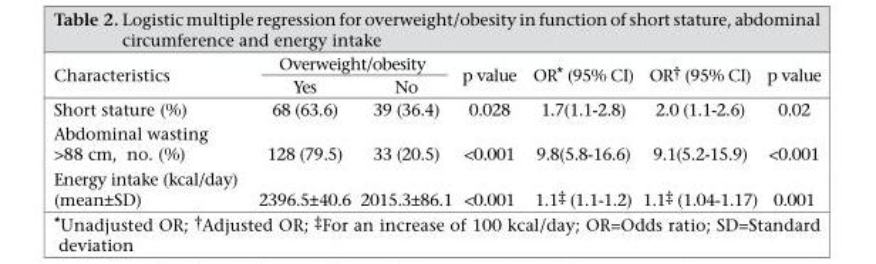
<table><thead><tr><td rowspan="2">Characteristics</td><td colspan="2">Overweight/obesity</td><td rowspan="2">p value</td><td rowspan="2">OR* (95% CI)</td><td rowspan="2">OR† (95% CI)</td><td rowspan="2">p value</td></tr><tr><td>Yes</td><td>No</td></tr></thead><tbody><tr><td>Short stature (%)</td><td>68 (63.6)</td><td>39 (36.4)</td><td>0.028</td><td>1.7(1.1-2.8)</td><td>2.0 (1.1-2.6)</td><td>0.02</td></tr><tr><td>Abdominal wasting &gt;88 cm, no. (%)</td><td>128 (79.5)</td><td>33 (20.5)</td><td>&lt;0.001</td><td>9.8(5.8-16.6)</td><td>9.1(5.2-15.9)</td><td>&lt;0.001</td></tr><tr><td>Energy intake (kcal/day) (mean±SD)</td><td>2396.5±40.6</td><td>2015.3±86.1</td><td>&lt;0.001</td><td>1.1‡ (1.1-1.2)</td><td>1.1‡ (1.04-1.17)</td><td>0.001</td></tr></tbody></table>